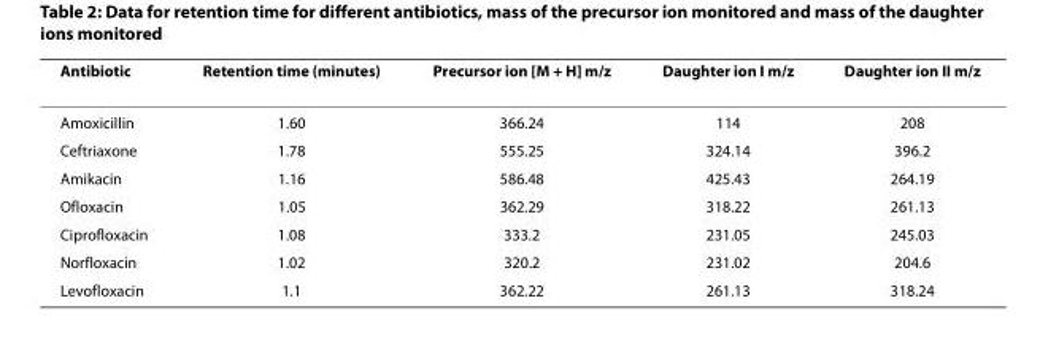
<table><thead><tr><td>Antibiotic</td><td>Retention time (minutes)</td><td>Precursor ion [M + H] m/z</td><td>Daughter ion I m/z</td><td>Daughter ion II m/z</td></tr></thead><tbody><tr><td>Amoxicillin</td><td>1.60</td><td>366.24</td><td>114</td><td>208</td></tr><tr><td>Ceftriaxone</td><td>1.78</td><td>555.25</td><td>324.14</td><td>396.2</td></tr><tr><td>Amikacin</td><td>1.16</td><td>586.48</td><td>425.43</td><td>264.19</td></tr><tr><td>Ofloxacin</td><td>1.05</td><td>362.29</td><td>318.22</td><td>261.13</td></tr><tr><td>Ciprofloxacin</td><td>1.08</td><td>333.2</td><td>231.05</td><td>245.03</td></tr><tr><td>Norfloxacin</td><td>1.02</td><td>320.2</td><td>231.02</td><td>204.6</td></tr><tr><td>Levofloxacin</td><td>1.1</td><td>362.22</td><td>261.13</td><td>318.24</td></tr></tbody></table>